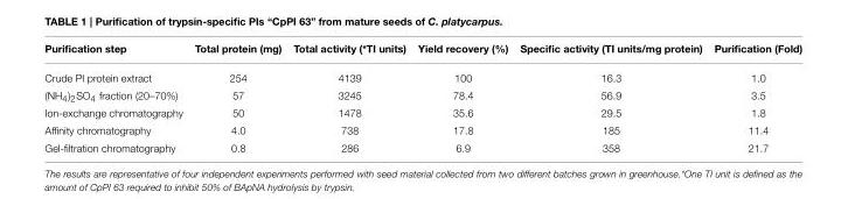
<table><thead><tr><td>Purification step</td><td>Total protein (mg)</td><td>Total activity (*TI units)</td><td>Yield recovery (%)</td><td>Specific activity (TI units/mg protein)</td><td>Purification (Fold)</td></tr></thead><tbody><tr><td>Crude PI protein extract</td><td>254</td><td>4139</td><td>100</td><td>16.3</td><td>1.0</td></tr><tr><td>(NH4)2SO4 fraction (20–70%)</td><td>57</td><td>3245</td><td>78.4</td><td>56.9</td><td>3.5</td></tr><tr><td>Ion-exchange chromatography</td><td>50</td><td>1478</td><td>35.6</td><td>29.5</td><td>1.8</td></tr><tr><td>Affinity chromatography</td><td>4.0</td><td>738</td><td>17.8</td><td>185</td><td>11.4</td></tr><tr><td>Gel-filtration chromatography</td><td>0.8</td><td>286</td><td>6.9</td><td>358</td><td>21.7</td></tr></tbody></table>